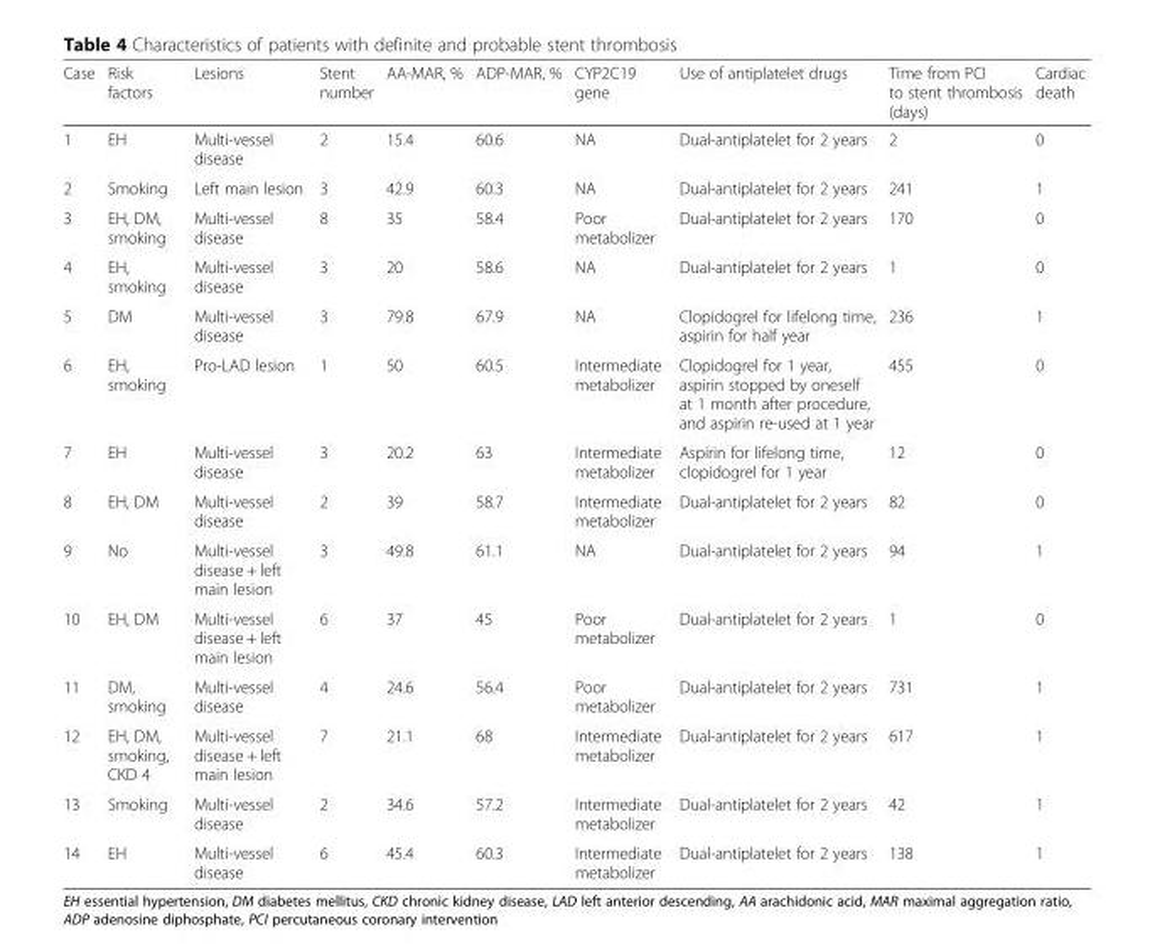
<table><thead><tr><td>Case</td><td>Risk factors</td><td>Lesions</td><td>Stent number</td><td>AA-MAR, %</td><td>ADP-MAR, %</td><td>CYP2C19 gene</td><td>Use of antiplatelet drugs</td><td>Time from PCI to stent thrombosis (days)</td><td>Cardiac death</td></tr></thead><tbody><tr><td>1</td><td>EH</td><td>Multi-vessel disease</td><td>2</td><td>15.4</td><td>60.6</td><td>NA</td><td>Dual-antiplatelet for 2 years</td><td>2</td><td>0</td></tr><tr><td>2</td><td>Smoking</td><td>Left main lesion</td><td>3</td><td>42.9</td><td>60.3</td><td>NA</td><td>Dual-antiplatelet for 2 years</td><td>241</td><td>1</td></tr><tr><td>3</td><td>EH, DM, smoking</td><td>Multi-vessel disease</td><td>8</td><td>35</td><td>58.4</td><td>Poor metabolizer</td><td>Dual-antiplatelet for 2 years</td><td>170</td><td>0</td></tr><tr><td>4</td><td>EH, smoking</td><td>Multi-vessel disease</td><td>3</td><td>20</td><td>58.6</td><td>NA</td><td>Dual-antiplatelet for 2 years</td><td>1</td><td>0</td></tr><tr><td>5</td><td>DM</td><td>Multi-vessel disease</td><td>3</td><td>79.8</td><td>67.9</td><td>NA</td><td>Clopidogrel for lifelong time, aspirin for half year</td><td>236</td><td>1</td></tr><tr><td>6</td><td>EH, smoking</td><td>Pro-LAD lesion</td><td>1</td><td>50</td><td>60.5</td><td>Intermediate metabolizer</td><td>Clopidogrel for 1 year, aspirin stopped by oneself at 1 month after procedure, and aspirin re-used at 1 year</td><td>455</td><td>0</td></tr><tr><td>7</td><td>EH</td><td>Multi-vessel disease</td><td>3</td><td>20.2</td><td>63</td><td>Intermediate metabolizer</td><td>Aspirin for lifelong time, clopidogrel for 1 year</td><td>12</td><td>0</td></tr><tr><td>8</td><td>EH, DM</td><td>Multi-vessel disease</td><td>2</td><td>39</td><td>58.7</td><td>Intermediate metabolizer</td><td>Dual-antiplatelet for 2 years</td><td>82</td><td>0</td></tr><tr><td>9</td><td>No</td><td>Multi-vessel disease + left main lesion</td><td>3</td><td>49.8</td><td>61.1</td><td>NA</td><td>Dual-antiplatelet for 2 years</td><td>94</td><td>1</td></tr><tr><td>10</td><td>EH, DM</td><td>Multi-vessel disease + left main lesion</td><td>6</td><td>37</td><td>45</td><td>Poor metabolizer</td><td>Dual-antiplatelet for 2 years</td><td>1</td><td>0</td></tr><tr><td>11</td><td>DM, smoking</td><td>Multi-vessel disease</td><td>4</td><td>24.6</td><td>56.4</td><td>Poor metabolizer</td><td>Dual-antiplatelet for 2 years</td><td>731</td><td>1</td></tr><tr><td>12</td><td>EH, DM, smoking, CKD 4</td><td>Multi-vessel disease + left main lesion</td><td>7</td><td>21.1</td><td>68</td><td>Intermediate metabolizer</td><td>Dual-antiplatelet for 2 years</td><td>617</td><td>1</td></tr><tr><td>13</td><td>Smoking</td><td>Multi-vessel disease</td><td>2</td><td>34.6</td><td>57.2</td><td>Intermediate metabolizer</td><td>Dual-antiplatelet for 2 years</td><td>42</td><td>1</td></tr><tr><td>14</td><td>EH</td><td>Multi-vessel disease</td><td>6</td><td>45.4</td><td>60.3</td><td>Intermediate metabolizer</td><td>Dual-antiplatelet for 2 years</td><td>138</td><td>1</td></tr></tbody></table>